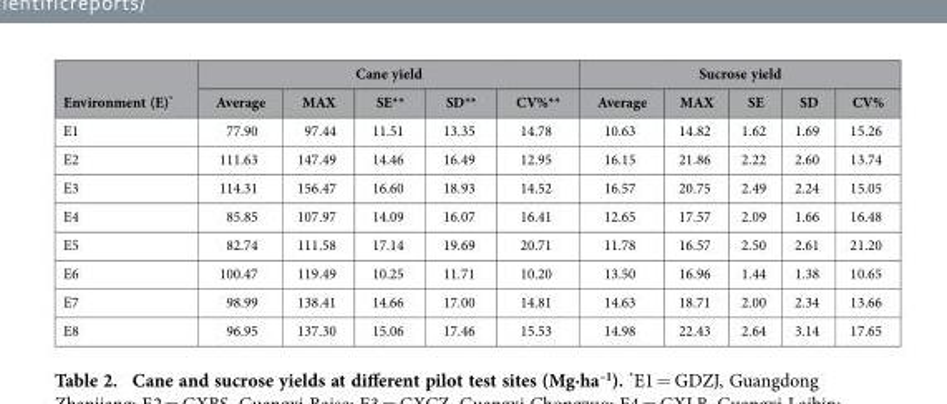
<table><thead><tr><td rowspan="2">Environment (E)*</td><td colspan="5">Cane yield</td><td colspan="5">Sucrose yield</td></tr><tr><td>Average</td><td>MAX</td><td>SE**</td><td>SD**</td><td>CV%**</td><td>Average</td><td>MAX</td><td>SE</td><td>SD</td><td>CV%</td></tr></thead><tbody><tr><td>E1</td><td>77.90</td><td>97.44</td><td>11.51</td><td>13.35</td><td>14.78</td><td>10.63</td><td>14.82</td><td>1.62</td><td>1.69</td><td>15.26</td></tr><tr><td>E2</td><td>111.63</td><td>147.49</td><td>14.46</td><td>16.49</td><td>12.95</td><td>16.15</td><td>21.86</td><td>2.22</td><td>2.60</td><td>13.74</td></tr><tr><td>E3</td><td>114.31</td><td>156.47</td><td>16.60</td><td>18.93</td><td>14.52</td><td>16.57</td><td>20.75</td><td>2.49</td><td>2.24</td><td>15.05</td></tr><tr><td>E4</td><td>85.85</td><td>107.97</td><td>14.09</td><td>16.07</td><td>16.41</td><td>12.65</td><td>17.57</td><td>2.09</td><td>1.66</td><td>16.48</td></tr><tr><td>E5</td><td>82.74</td><td>111.58</td><td>17.14</td><td>19.69</td><td>20.71</td><td>11.78</td><td>16.57</td><td>2.50</td><td>2.61</td><td>21.20</td></tr><tr><td>E6</td><td>100.47</td><td>119.49</td><td>10.25</td><td>11.71</td><td>10.20</td><td>13.50</td><td>16.96</td><td>1.44</td><td>1.38</td><td>10.65</td></tr><tr><td>E7</td><td>98.99</td><td>138.41</td><td>14.66</td><td>17.00</td><td>14.81</td><td>14.63</td><td>18.71</td><td>2.00</td><td>2.34</td><td>13.66</td></tr><tr><td>E8</td><td>96.95</td><td>137.30</td><td>15.06</td><td>17.46</td><td>15.53</td><td>14.98</td><td>22.43</td><td>2.64</td><td>3.14</td><td>17.65</td></tr></tbody></table>